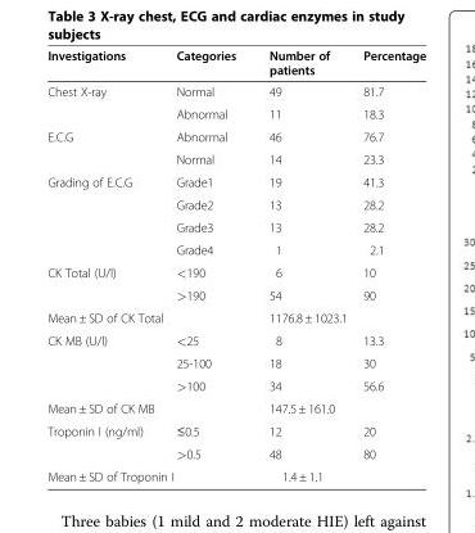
<table><thead><tr><td>Investigations</td><td>Categories</td><td>Number of patients</td><td>Percentage</td></tr></thead><tbody><tr><td rowspan="2">Chest X-ray</td><td>Normal</td><td>49</td><td>81.7</td></tr><tr><td>Abnormal</td><td>11</td><td>18.3</td></tr><tr><td rowspan="2">E.C.G</td><td>Abnormal</td><td>46</td><td>76.7</td></tr><tr><td>Normal</td><td>14</td><td>23.3</td></tr><tr><td rowspan="4">Grading of E.C.G</td><td>Grade1</td><td>19</td><td>41.3</td></tr><tr><td>Grade2</td><td>13</td><td>28.2</td></tr><tr><td>Grade3</td><td>13</td><td>28.2</td></tr><tr><td>Grade4</td><td>1</td><td>2.1</td></tr><tr><td rowspan="2">CK Total (U/l)</td><td>&lt;190</td><td>6</td><td>10</td></tr><tr><td>&gt;190</td><td>54</td><td>90</td></tr><tr><td colspan="2">Mean ± SD of CK Total</td><td colspan="2">1176.8 ± 1023.1</td></tr><tr><td rowspan="3">CK MB (U/l)</td><td>&lt;25</td><td>8</td><td>13.3</td></tr><tr><td>25-100</td><td>18</td><td>30</td></tr><tr><td>&gt;100</td><td>34</td><td>56.6</td></tr><tr><td colspan="2">Mean ± SD of CK MB</td><td colspan="2">147.5 ± 161.0</td></tr><tr><td rowspan="2">Troponin I (ng/ml)</td><td>≤0.5</td><td>12</td><td>20</td></tr><tr><td>&gt;0.5</td><td>48</td><td>80</td></tr><tr><td colspan="2">Mean ± SD of Troponin I</td><td colspan="2">1.4 ± 1.1</td></tr></tbody></table>